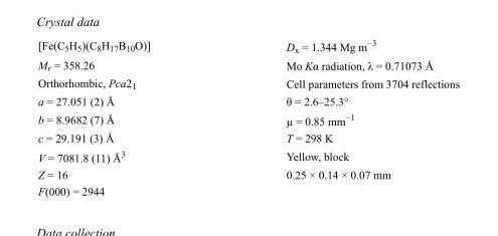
<table><tbody><tr><td>[Fe(C<sub>5</sub>H<sub>5</sub>)(C<sub>8</sub>H<sub>17</sub>B<sub>10</sub>O)]</td><td>D<sub>x</sub> = 1.344 Mg m<sup>−3</sup></td></tr><tr><td>M<sub>r</sub> = 358.26</td><td>Mo Kα radiation, λ = 0.71073 Å</td></tr><tr><td>Orthorhombic, Pca2<sub>1</sub></td><td>Cell parameters from 3704 reflections</td></tr><tr><td>a = 27.051 (2) Å</td><td>θ = 2.6–25.3°</td></tr><tr><td>b = 8.9682 (7) Å</td><td>µ = 0.85 mm<sup>−1</sup></td></tr><tr><td>c = 29.191 (3) Å</td><td>T = 298 K</td></tr><tr><td>V = 7081.8 (11) Å<sup>3</sup></td><td>Yellow, block</td></tr><tr><td>Z = 16</td><td>0.25 × 0.14 × 0.07 mm</td></tr><tr><td>F(000) = 2944</td><td></td></tr></tbody></table>